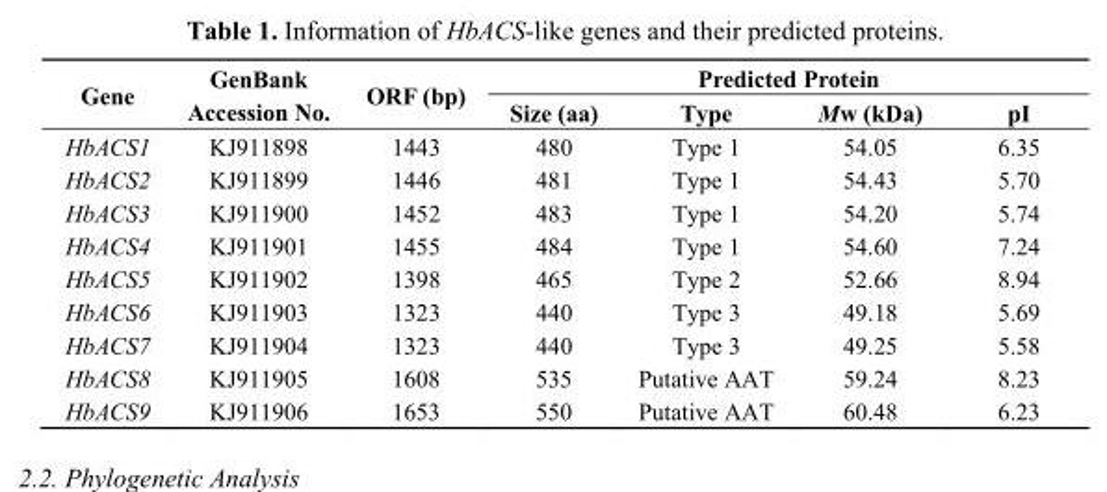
<table><thead><tr><td rowspan="2">Gene</td><td rowspan="2">GenBank Accession No.</td><td rowspan="2">ORF (bp)</td><td colspan="4">Predicted Protein</td></tr><tr><td>Size (aa)</td><td>Type</td><td>Mw (kDa)</td><td>pI</td></tr></thead><tbody><tr><td>HbACS1</td><td>KJ911898</td><td>1443</td><td>480</td><td>Type 1</td><td>54.05</td><td>6.35</td></tr><tr><td>HbACS2</td><td>KJ911899</td><td>1446</td><td>481</td><td>Type 1</td><td>54.43</td><td>5.70</td></tr><tr><td>HbACS3</td><td>KJ911900</td><td>1452</td><td>483</td><td>Type 1</td><td>54.20</td><td>5.74</td></tr><tr><td>HbACS4</td><td>KJ911901</td><td>1455</td><td>484</td><td>Type 1</td><td>54.60</td><td>7.24</td></tr><tr><td>HbACS5</td><td>KJ911902</td><td>1398</td><td>465</td><td>Type 2</td><td>52.66</td><td>8.94</td></tr><tr><td>HbACS6</td><td>KJ911903</td><td>1323</td><td>440</td><td>Type 3</td><td>49.18</td><td>5.69</td></tr><tr><td>HbACS7</td><td>KJ911904</td><td>1323</td><td>440</td><td>Type 3</td><td>49.25</td><td>5.58</td></tr><tr><td>HbACS8</td><td>KJ911905</td><td>1608</td><td>535</td><td>Putative AAT</td><td>59.24</td><td>8.23</td></tr><tr><td>HbACS9</td><td>KJ911906</td><td>1653</td><td>550</td><td>Putative AAT</td><td>60.48</td><td>6.23</td></tr></tbody></table>